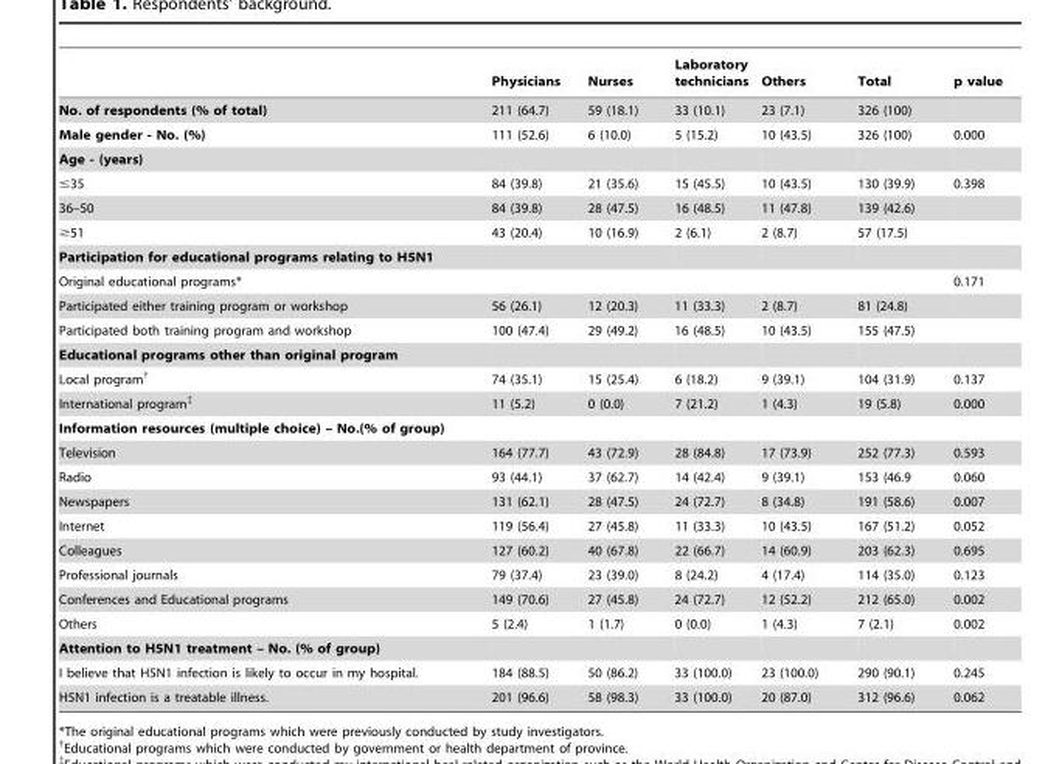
<table><thead><tr><td></td><td>Physicians</td><td>Nurses</td><td>Laboratory technicians</td><td>Others</td><td>Total</td><td>p value</td></tr></thead><tbody><tr><td>No. of respondents (% of total)</td><td>211 (64.7)</td><td>59 (18.1)</td><td>33 (10.1)</td><td>23 (7.1)</td><td>326 (100)</td><td></td></tr><tr><td>Male gender - No. (%)</td><td>111 (52.6)</td><td>6 (10.0)</td><td>5 (15.2)</td><td>10 (43.5)</td><td>326 (100)</td><td>0.000</td></tr><tr><td colspan="7">Age - (years)</td></tr><tr><td>≤35</td><td>84 (39.8)</td><td>21 (35.6)</td><td>15 (45.5)</td><td>10 (43.5)</td><td>130 (39.9)</td><td>0.398</td></tr><tr><td>36–50</td><td>84 (39.8)</td><td>28 (47.5)</td><td>16 (48.5)</td><td>11 (47.8)</td><td>139 (42.6)</td><td></td></tr><tr><td>≥51</td><td>43 (20.4)</td><td>10 (16.9)</td><td>2 (6.1)</td><td>2 (8.7)</td><td>57 (17.5)</td><td></td></tr><tr><td colspan="7">Participation for educational programs relating to H5N1</td></tr><tr><td>Original educational programs*</td><td></td><td></td><td></td><td></td><td></td><td>0.171</td></tr><tr><td>Participated either training program or workshop</td><td>56 (26.1)</td><td>12 (20.3)</td><td>11 (33.3)</td><td>2 (8.7)</td><td>81 (24.8)</td><td></td></tr><tr><td>Participated both training program and workshop</td><td>100 (47.4)</td><td>29 (49.2)</td><td>16 (48.5)</td><td>10 (43.5)</td><td>155 (47.5)</td><td></td></tr><tr><td colspan="7">Educational programs other than original program</td></tr><tr><td>Local program†</td><td>74 (35.1)</td><td>15 (25.4)</td><td>6 (18.2)</td><td>9 (39.1)</td><td>104 (31.9)</td><td>0.137</td></tr><tr><td>International program‡</td><td>11 (5.2)</td><td>0 (0.0)</td><td>7 (21.2)</td><td>1 (4.3)</td><td>19 (5.8)</td><td>0.000</td></tr><tr><td colspan="7">Information resources (multiple choice) – No.(% of group)</td></tr><tr><td>Television</td><td>164 (77.7)</td><td>43 (72.9)</td><td>28 (84.8)</td><td>17 (73.9)</td><td>252 (77.3)</td><td>0.593</td></tr><tr><td>Radio</td><td>93 (44.1)</td><td>37 (62.7)</td><td>14 (42.4)</td><td>9 (39.1)</td><td>153 (46.9</td><td>0.060</td></tr><tr><td>Newspapers</td><td>131 (62.1)</td><td>28 (47.5)</td><td>24 (72.7)</td><td>8 (34.8)</td><td>191 (58.6)</td><td>0.007</td></tr><tr><td>Internet</td><td>119 (56.4)</td><td>27 (45.8)</td><td>11 (33.3)</td><td>10 (43.5)</td><td>167 (51.2)</td><td>0.052</td></tr><tr><td>Colleagues</td><td>127 (60.2)</td><td>40 (67.8)</td><td>22 (66.7)</td><td>14 (60.9)</td><td>203 (62.3)</td><td>0.695</td></tr><tr><td>Professional journals</td><td>79 (37.4)</td><td>23 (39.0)</td><td>8 (24.2)</td><td>4 (17.4)</td><td>114 (35.0)</td><td>0.123</td></tr><tr><td>Conferences and Educational programs</td><td>149 (70.6)</td><td>27 (45.8)</td><td>24 (72.7)</td><td>12 (52.2)</td><td>212 (65.0)</td><td>0.002</td></tr><tr><td>Others</td><td>5 (2.4)</td><td>1 (1.7)</td><td>0 (0.0)</td><td>1 (4.3)</td><td>7 (2.1)</td><td>0.002</td></tr><tr><td colspan="7">Attention to H5N1 treatment – No. (% of group)</td></tr><tr><td>I believe that H5N1 infection is likely to occur in my hospital.</td><td>184 (88.5)</td><td>50 (86.2)</td><td>33 (100.0)</td><td>23 (100.0)</td><td>290 (90.1)</td><td>0.245</td></tr><tr><td>H5N1 infection is a treatable illness.</td><td>201 (96.6)</td><td>58 (98.3)</td><td>33 (100.0)</td><td>20 (87.0)</td><td>312 (96.6)</td><td>0.062</td></tr></tbody></table>